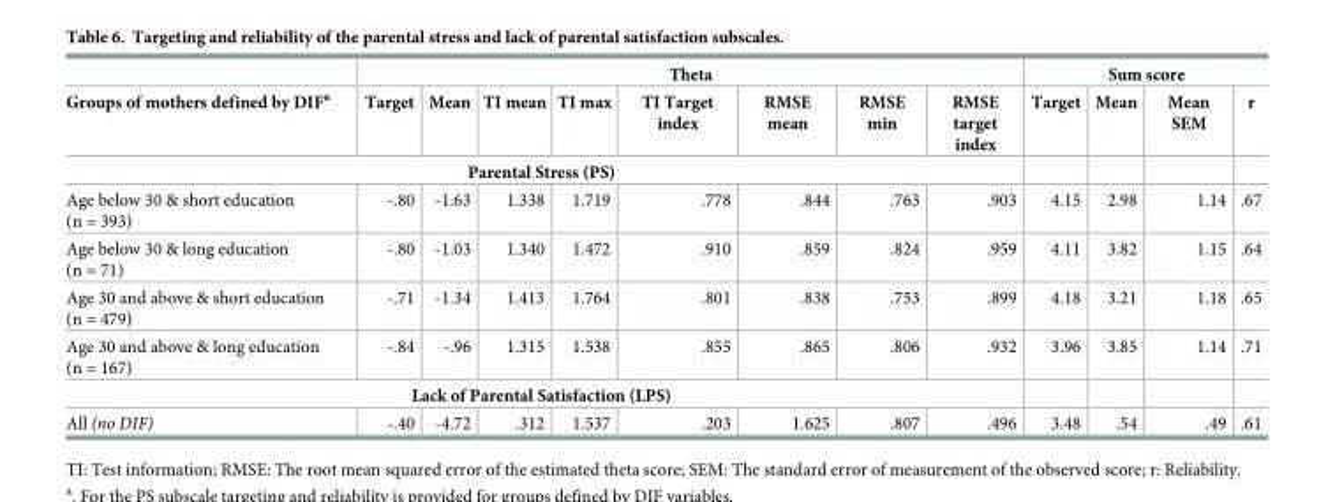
<table><thead><tr><td rowspan="2">Groups of mothers defined by DIF<sup>a</sup></td><td colspan="8">Theta</td><td colspan="4">Sum score</td></tr><tr><td>Target</td><td>Mean</td><td>TI mean</td><td>TI max</td><td>TI Target index</td><td>RMSE mean</td><td>RMSE min</td><td>RMSE target index</td><td>Target</td><td>Mean</td><td>Mean SEM</td><td>r</td></tr></thead><tbody><tr><td colspan="13">Parental Stress (PS)</td></tr><tr><td>Age below 30 &amp; short education (n = 393)</td><td>-.80</td><td>-1.63</td><td>1.338</td><td>1.719</td><td>.778</td><td>.844</td><td>.763</td><td>.903</td><td>4.15</td><td>2.98</td><td>1.14</td><td>.67</td></tr><tr><td>Age below 30 &amp; long education (n = 71)</td><td>-.80</td><td>-1.03</td><td>1.340</td><td>1.472</td><td>.910</td><td>.859</td><td>.824</td><td>.959</td><td>4.11</td><td>3.82</td><td>1.15</td><td>.64</td></tr><tr><td>Age 30 and above &amp; short education (n = 479)</td><td>-.71</td><td>-1.34</td><td>1.413</td><td>1.764</td><td>.801</td><td>.838</td><td>.753</td><td>.899</td><td>4.18</td><td>3.21</td><td>1.18</td><td>.65</td></tr><tr><td>Age 30 and above &amp; long education (n = 167)</td><td>-.84</td><td>-.96</td><td>1.315</td><td>1.538</td><td>.855</td><td>.865</td><td>.806</td><td>.932</td><td>3.96</td><td>3.85</td><td>1.14</td><td>.71</td></tr><tr><td colspan="13">Lack of Parental Satisfaction (LPS)</td></tr><tr><td>All (no DIF)</td><td>-.40</td><td>-4.72</td><td>.312</td><td>1.537</td><td>.203</td><td>1.625</td><td>.807</td><td>.496</td><td>3.48</td><td>.54</td><td>.49</td><td>.61</td></tr></tbody></table>